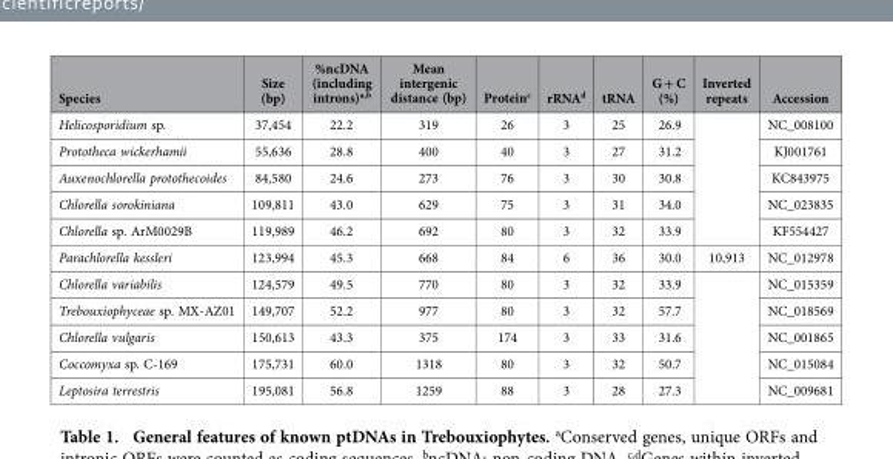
<table><thead><tr><td>Species</td><td>Size (bp)</td><td>%ncDNA (including introns)a,<sup>b</sup></td><td>Mean intergenic distance (bp)</td><td>Protein<sup>c</sup></td><td>rRNA<sup>d</sup></td><td>tRNA</td><td>G + C (%)</td><td>Inverted repeats</td><td>Accession</td></tr></thead><tbody><tr><td>Helicosporidium sp.</td><td>37,454</td><td>22.2</td><td>319</td><td>26</td><td>3</td><td>25</td><td>26.9</td><td rowspan="5"></td><td>NC_008100</td></tr><tr><td>Prototheca wickerhamii</td><td>55,636</td><td>28.8</td><td>400</td><td>40</td><td>3</td><td>27</td><td>31.2</td><td>KJ001761</td></tr><tr><td>Auxenochlorella protothecoides</td><td>84,580</td><td>24.6</td><td>273</td><td>76</td><td>3</td><td>30</td><td>30.8</td><td>KC843975</td></tr><tr><td>Chlorella sorokiniana</td><td>109,811</td><td>43.0</td><td>629</td><td>75</td><td>3</td><td>31</td><td>34.0</td><td>NC_023835</td></tr><tr><td>Chlorella sp. ArM0029B</td><td>119,989</td><td>46.2</td><td>692</td><td>80</td><td>3</td><td>32</td><td>33.9</td><td>KF554427</td></tr><tr><td>Parachlorella kessleri</td><td>123,994</td><td>45.3</td><td>668</td><td>84</td><td>6</td><td>36</td><td>30.0</td><td>10,913</td><td>NC_012978</td></tr><tr><td>Chlorella variabilis</td><td>124,579</td><td>49.5</td><td>770</td><td>80</td><td>3</td><td>32</td><td>33.9</td><td rowspan="5"></td><td>NC_015359</td></tr><tr><td>Trebouxiophyceae sp. MX-AZ01</td><td>149,707</td><td>52.2</td><td>977</td><td>80</td><td>3</td><td>32</td><td>57.7</td><td>NC_018569</td></tr><tr><td>Chlorella vulgaris</td><td>150,613</td><td>43.3</td><td>375</td><td>174</td><td>3</td><td>33</td><td>31.6</td><td>NC_001865</td></tr><tr><td>Coccomyxa sp. C-169</td><td>175,731</td><td>60.0</td><td>1318</td><td>80</td><td>3</td><td>32</td><td>50.7</td><td>NC_015084</td></tr><tr><td>Leptosira terrestris</td><td>195,081</td><td>56.8</td><td>1259</td><td>88</td><td>3</td><td>28</td><td>27.3</td><td>NC_009681</td></tr></tbody></table>